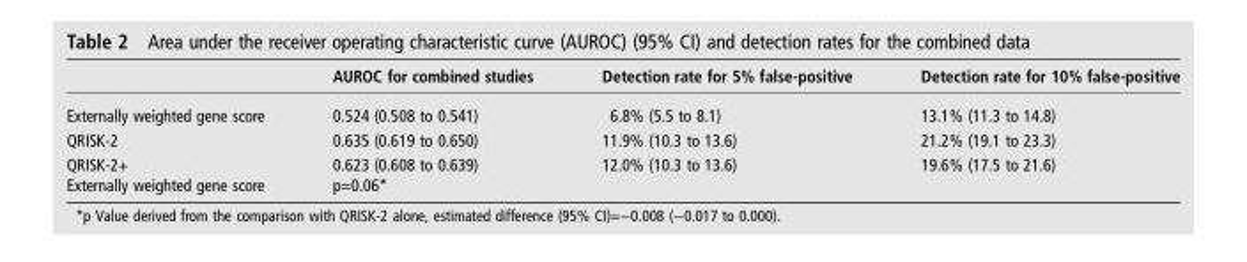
<table><thead><tr><td></td><td>AUROC for combined studies</td><td>Detection rate for 5% false-positive</td><td>Detection rate for 10% false-positive</td></tr></thead><tbody><tr><td>Externally weighted gene score</td><td>0.524 (0.508 to 0.541)</td><td>6.8% (5.5 to 8.1)</td><td>13.1% (11.3 to 14.8)</td></tr><tr><td>QRISK-2</td><td>0.635 (0.619 to 0.650)</td><td>11.9% (10.3 to 13.6)</td><td>21.2% (19.1 to 23.3)</td></tr><tr><td>QRISK-2+ Externally weighted gene score</td><td>0.623 (0.608 to 0.639) p=0.06*</td><td>12.0% (10.3 to 13.6)</td><td>19.6% (17.5 to 21.6)</td></tr></tbody></table>